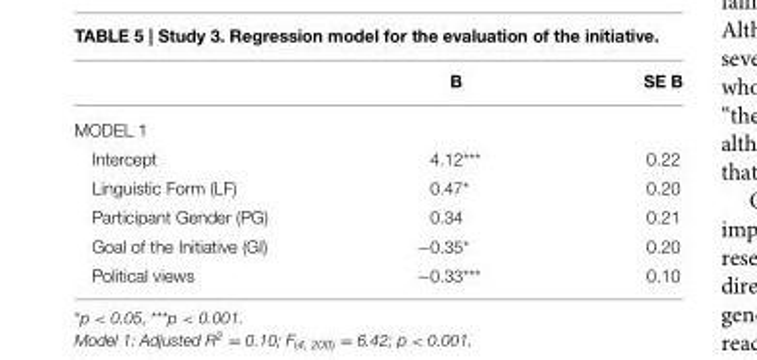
<table><thead><tr><td></td><td>B</td><td>SE B</td></tr></thead><tbody><tr><td colspan="3">MODEL 1</td></tr><tr><td>Intercept</td><td>4.12***</td><td>0.22</td></tr><tr><td>Linguistic Form (LF)</td><td>0.47*</td><td>0.20</td></tr><tr><td>Participant Gender (PG)</td><td>0.34</td><td>0.21</td></tr><tr><td>Goal of the Initiative (GI)</td><td>−0.35*</td><td>0.20</td></tr><tr><td>Political views</td><td>−0.33***</td><td>0.10</td></tr></tbody></table>